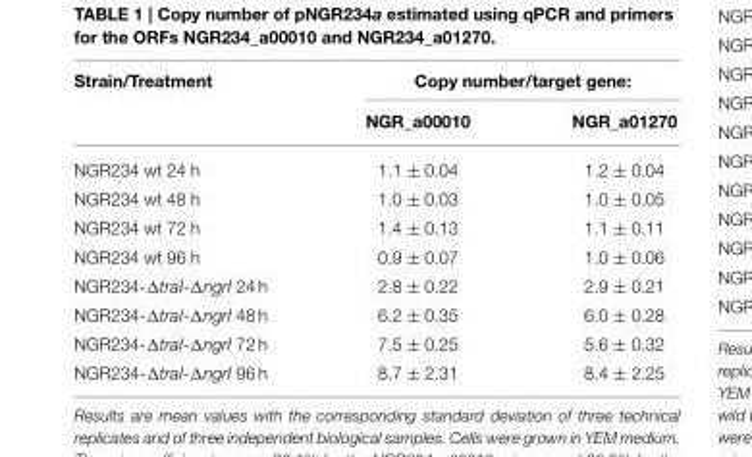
<table><thead><tr><td rowspan="2">Strain/Treatment</td><td colspan="2">Copy number/target gene:</td></tr><tr><td>NGR_a00010</td><td>NGR_a01270</td></tr></thead><tbody><tr><td>NGR234 wt 24 h</td><td>1.1 ± 0.04</td><td>1.2 ± 0.04</td></tr><tr><td>NGR234 wt 48 h</td><td>1.0 ± 0.03</td><td>1.0 ± 0.05</td></tr><tr><td>NGR234 wt 72 h</td><td>1.4 ± 0.13</td><td>1.1 ± 0.11</td></tr><tr><td>NGR234 wt 96 h</td><td>0.9 ± 0.07</td><td>1.0 ± 0.06</td></tr><tr><td>NGR234-ΔtraI-ΔngrI 24 h</td><td>2.8 ± 0.22</td><td>2.9 ± 0.21</td></tr><tr><td>NGR234-ΔtraI-ΔngrI 48 h</td><td>6.2 ± 0.35</td><td>6.0 ± 0.28</td></tr><tr><td>NGR234-ΔtraI-ΔngrI 72 h</td><td>7.5 ± 0.25</td><td>5.6 ± 0.32</td></tr><tr><td>NGR234-ΔtraI-ΔngrI 96 h</td><td>8.7 ± 2.31</td><td>8.4 ± 2.25</td></tr></tbody></table>